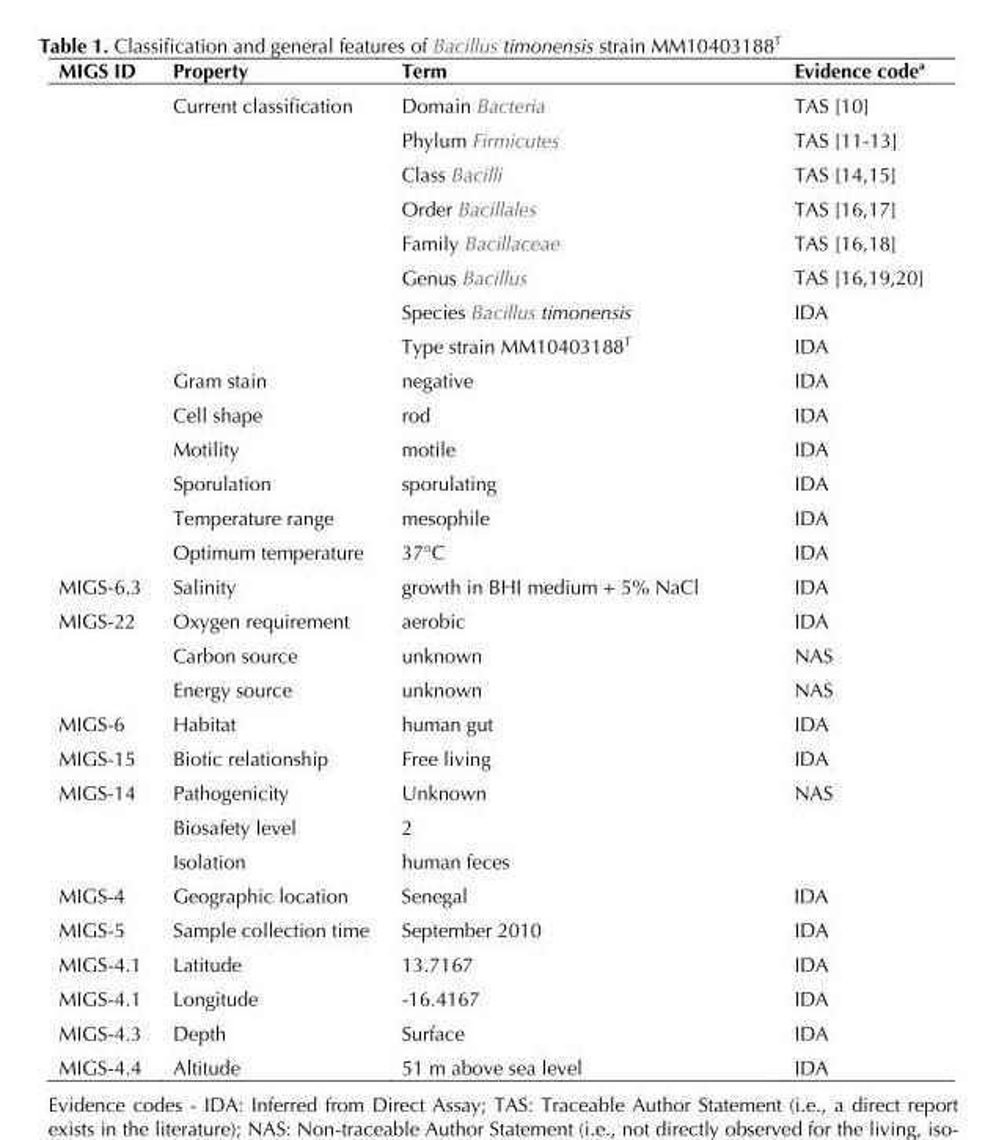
<table><thead><tr><td>MIGS ID</td><td>Property</td><td>Term</td><td>Evidence code<sup>a</sup></td></tr></thead><tbody><tr><td></td><td>Current classification</td><td>Domain Bacteria</td><td>TAS [10]</td></tr><tr><td></td><td></td><td>Phylum Firmicutes</td><td>TAS [11-13]</td></tr><tr><td></td><td></td><td>Class Bacilli</td><td>TAS [14,15]</td></tr><tr><td></td><td></td><td>Order Bacillales</td><td>TAS [16,17]</td></tr><tr><td></td><td></td><td>Family Bacillaceae</td><td>TAS [16,18]</td></tr><tr><td></td><td></td><td>Genus Bacillus</td><td>TAS [16,19,20]</td></tr><tr><td></td><td></td><td>Species Bacillus timonensis</td><td>IDA</td></tr><tr><td></td><td></td><td>Type strain MM10403188<sup>T</sup></td><td>IDA</td></tr><tr><td></td><td>Gram stain</td><td>negative</td><td>IDA</td></tr><tr><td></td><td>Cell shape</td><td>rod</td><td>IDA</td></tr><tr><td></td><td>Motility</td><td>motile</td><td>IDA</td></tr><tr><td></td><td>Sporulation</td><td>sporulating</td><td>IDA</td></tr><tr><td></td><td>Temperature range</td><td>mesophile</td><td>IDA</td></tr><tr><td></td><td>Optimum temperature</td><td>37°C</td><td>IDA</td></tr><tr><td>MIGS-6.3</td><td>Salinity</td><td>growth in BHI medium + 5% NaCl</td><td>IDA</td></tr><tr><td rowspan="3">MIGS-22</td><td>Oxygen requirement</td><td>aerobic</td><td>IDA</td></tr><tr><td>Carbon source</td><td>unknown</td><td>NAS</td></tr><tr><td>Energy source</td><td>unknown</td><td>NAS</td></tr><tr><td>MIGS-6</td><td>Habitat</td><td>human gut</td><td>IDA</td></tr><tr><td>MIGS-15</td><td>Biotic relationship</td><td>Free living</td><td>IDA</td></tr><tr><td>MIGS-14</td><td>Pathogenicity Biosafety level Isolation</td><td>Unknown 2 human feces</td><td>NAS</td></tr><tr><td>MIGS-4</td><td>Geographic location</td><td>Senegal</td><td>IDA</td></tr><tr><td>MIGS-5</td><td>Sample collection time</td><td>September 2010</td><td>IDA</td></tr><tr><td>MIGS-4.1</td><td>Latitude</td><td>13.7167</td><td>IDA</td></tr><tr><td>MIGS-4.1</td><td>Longitude</td><td>-16.4167</td><td>IDA</td></tr><tr><td>MIGS-4.3</td><td>Depth</td><td>Surface</td><td>IDA</td></tr><tr><td>MIGS-4.4</td><td>Altitude</td><td>51 m above sea level</td><td>IDA</td></tr></tbody></table>